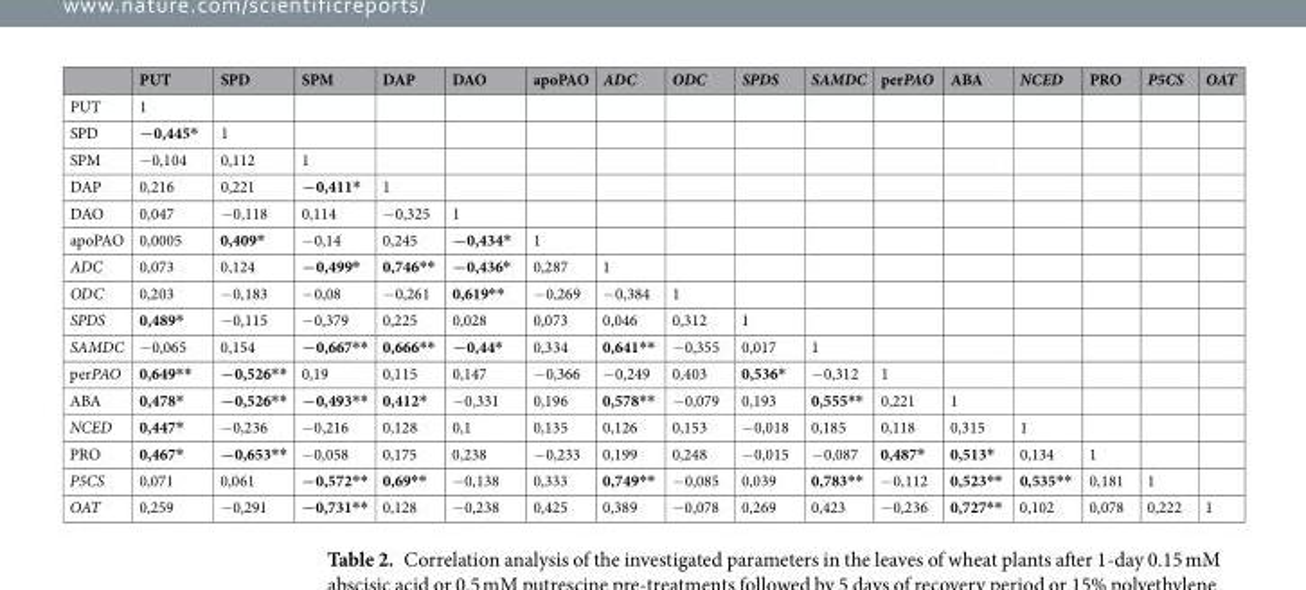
<table><thead><tr><td></td><td>PUT</td><td>SPD</td><td>SPM</td><td>DAP</td><td>DAO</td><td>apoPAO</td><td>ADC</td><td>ODC</td><td>SPDS</td><td>SAMDC</td><td>perPAO</td><td>ABA</td><td>NCED</td><td>PRO</td><td>P5CS</td><td>OAT</td></tr></thead><tbody><tr><td>PUT</td><td>1</td><td></td><td></td><td></td><td></td><td></td><td></td><td></td><td></td><td></td><td></td><td></td><td></td><td></td><td></td><td></td></tr><tr><td>SPD</td><td>−0,445*</td><td>1</td><td></td><td></td><td></td><td></td><td></td><td></td><td></td><td></td><td></td><td></td><td></td><td></td><td></td><td></td></tr><tr><td>SPM</td><td>−0,104</td><td>0,112</td><td>1</td><td></td><td></td><td></td><td></td><td></td><td></td><td></td><td></td><td></td><td></td><td></td><td></td><td></td></tr><tr><td>DAP</td><td>0,216</td><td>0,221</td><td>−0,411*</td><td>1</td><td></td><td></td><td></td><td></td><td></td><td></td><td></td><td></td><td></td><td></td><td></td><td></td></tr><tr><td>DAO</td><td>0,047</td><td>−0,118</td><td>0,114</td><td>−0,325</td><td>1</td><td></td><td></td><td></td><td></td><td></td><td></td><td></td><td></td><td></td><td></td><td></td></tr><tr><td>apoPAO</td><td>0,0005</td><td>0,409*</td><td>−0,14</td><td>0,245</td><td>−0,434*</td><td>1</td><td></td><td></td><td></td><td></td><td></td><td></td><td></td><td></td><td></td><td></td></tr><tr><td>ADC</td><td>0,073</td><td>0,124</td><td>−0,499*</td><td>0,746**</td><td>−0,436*</td><td>0,287</td><td>1</td><td></td><td></td><td></td><td></td><td></td><td></td><td></td><td></td><td></td></tr><tr><td>ODC</td><td>0,203</td><td>−0,183</td><td>−0,08</td><td>−0,261</td><td>0,619**</td><td>−0,269</td><td>−0,384</td><td>1</td><td></td><td></td><td></td><td></td><td></td><td></td><td></td><td></td></tr><tr><td>SPDS</td><td>0,489*</td><td>−0,115</td><td>−0,379</td><td>0,225</td><td>0,028</td><td>0,073</td><td>0,046</td><td>0,312</td><td>1</td><td></td><td></td><td></td><td></td><td></td><td></td><td></td></tr><tr><td>SAMDC</td><td>−0,065</td><td>0,154</td><td>−0,667**</td><td>0,666**</td><td>−0,44*</td><td>0,334</td><td>0,641**</td><td>−0,355</td><td>0,017</td><td>1</td><td></td><td></td><td></td><td></td><td></td><td></td></tr><tr><td>perPAO</td><td>0,649**</td><td>−0,526**</td><td>0,19</td><td>0,115</td><td>0,147</td><td>−0,366</td><td>−0,249</td><td>0,403</td><td>0,536*</td><td>−0,312</td><td>1</td><td></td><td></td><td></td><td></td><td></td></tr><tr><td>ABA</td><td>0,478*</td><td>−0,526**</td><td>−0,493**</td><td>0,412*</td><td>−0,331</td><td>0,196</td><td>0,578**</td><td>−0,079</td><td>0,193</td><td>0,555**</td><td>0,221</td><td>1</td><td></td><td></td><td></td><td></td></tr><tr><td>NCED</td><td>0,447*</td><td>−0,236</td><td>−0,216</td><td>0,128</td><td>0,1</td><td>0,135</td><td>0,126</td><td>0,153</td><td>−0,018</td><td>0,185</td><td>0,118</td><td>0,315</td><td>1</td><td></td><td></td><td></td></tr><tr><td>PRO</td><td>0,467*</td><td>−0,653**</td><td>−0,058</td><td>0,175</td><td>0,238</td><td>−0,233</td><td>0,199</td><td>0,248</td><td>−0,015</td><td>−0,087</td><td>0,487*</td><td>0,513*</td><td>0,134</td><td>1</td><td></td><td></td></tr><tr><td>P5CS</td><td>0,071</td><td>0,061</td><td>−0,572**</td><td>0,69**</td><td>−0,138</td><td>0,333</td><td>0,749**</td><td>−0,085</td><td>0,039</td><td>0,783**</td><td>−0,112</td><td>0,523**</td><td>0,535**</td><td>0,181</td><td>1</td><td></td></tr><tr><td>OAT</td><td>0,259</td><td>−0,291</td><td>−0,731**</td><td>0,128</td><td>−0,238</td><td>0,425</td><td>0,389</td><td>−0,078</td><td>0,269</td><td>0,423</td><td>−0,236</td><td>0,727**</td><td>0,102</td><td>0,078</td><td>0,222</td><td>1</td></tr></tbody></table>